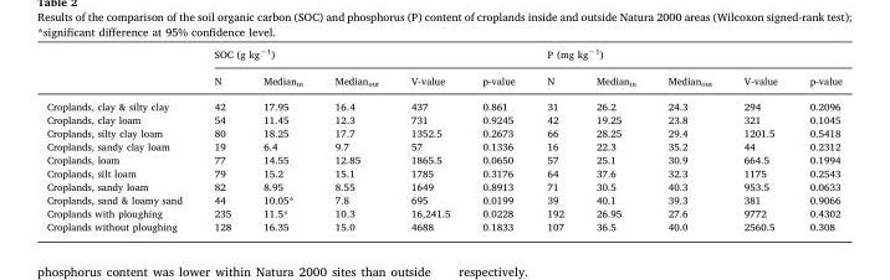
<table><thead><tr><td rowspan="2"></td><td colspan="5">SOC (g kg<sup>−1</sup>)</td><td colspan="5">P (mg kg<sup>−1</sup>)</td></tr><tr><td>N</td><td>Median<sub>in</sub></td><td>Median<sub>out</sub></td><td>V-value</td><td>p-value</td><td>N</td><td>Median<sub>in</sub></td><td>Median<sub>out</sub></td><td>V-value</td><td>p-value</td></tr></thead><tbody><tr><td>Croplands, clay &amp; silty clay</td><td>42</td><td>17.95</td><td>16.4</td><td>437</td><td>0.861</td><td>31</td><td>26.2</td><td>24.3</td><td>294</td><td>0.2096</td></tr><tr><td>Croplands, clay loam</td><td>54</td><td>11.45</td><td>12.3</td><td>731</td><td>0.9245</td><td>42</td><td>19.25</td><td>23.8</td><td>321</td><td>0.1045</td></tr><tr><td>Croplands, silty clay loam</td><td>80</td><td>18.25</td><td>17.7</td><td>1352.5</td><td>0.2673</td><td>66</td><td>28.25</td><td>29.4</td><td>1201.5</td><td>0.5418</td></tr><tr><td>Croplands, sandy clay loam</td><td>19</td><td>6.4</td><td>9.7</td><td>57</td><td>0.1336</td><td>16</td><td>22.3</td><td>35.2</td><td>44</td><td>0.2312</td></tr><tr><td>Croplands, loam</td><td>77</td><td>14.55</td><td>12.85</td><td>1865.5</td><td>0.0650</td><td>57</td><td>25.1</td><td>30.9</td><td>664.5</td><td>0.1994</td></tr><tr><td>Croplands, silt loam</td><td>79</td><td>15.2</td><td>15.1</td><td>1785</td><td>0.3176</td><td>64</td><td>37.6</td><td>32.3</td><td>1175</td><td>0.2543</td></tr><tr><td>Croplands, sandy loam</td><td>82</td><td>8.95</td><td>8.55</td><td>1649</td><td>0.8913</td><td>71</td><td>30.5</td><td>40.3</td><td>953.5</td><td>0.0633</td></tr><tr><td>Croplands, sand &amp; loamy sand</td><td>44</td><td>10.05*</td><td>7.8</td><td>695</td><td>0.0199</td><td>39</td><td>40.1</td><td>39.3</td><td>381</td><td>0.9066</td></tr><tr><td>Croplands with ploughing</td><td>235</td><td>11.5*</td><td>10.3</td><td>16,241.5</td><td>0.0228</td><td>192</td><td>26.95</td><td>27.6</td><td>9772</td><td>0.4302</td></tr><tr><td>Croplands without ploughing</td><td>128</td><td>16.35</td><td>15.0</td><td>4688</td><td>0.1833</td><td>107</td><td>36.5</td><td>40.0</td><td>2560.5</td><td>0.308</td></tr></tbody></table>